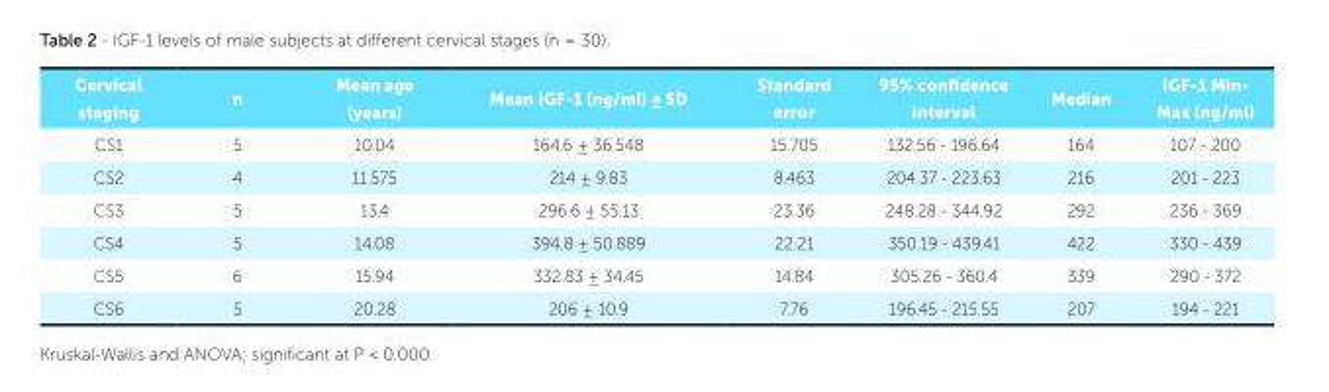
<table><thead><tr><td>Cervical staging</td><td>n</td><td>Mean age (years)</td><td>Mean IGF-1 (ng/ml) ± SD</td><td>Standard error</td><td>95% confidence interval</td><td>Median</td><td>IGF-1 Min- Max (ng/ml)</td></tr></thead><tbody><tr><td>CS1</td><td>5</td><td>10.04</td><td>164.6 ± 36.548</td><td>15.705</td><td>132.56 - 196.64</td><td>164</td><td>107 - 200</td></tr><tr><td>CS2</td><td>4</td><td>11.575</td><td>214 ± 9.83</td><td>8.463</td><td>204.37 - 223.63</td><td>216</td><td>201 - 223</td></tr><tr><td>CS3</td><td>5</td><td>13.4</td><td>296.6 ± 55.13</td><td>23.36</td><td>248.28 - 344.92</td><td>292</td><td>236 - 369</td></tr><tr><td>CS4</td><td>5</td><td>14.08</td><td>394.8 ± 50.889</td><td>22.21</td><td>350.19 - 439.41</td><td>422</td><td>330 - 439</td></tr><tr><td>CS5</td><td>6</td><td>15.94</td><td>332.83 ± 34.45</td><td>14.84</td><td>305.26 - 360.4</td><td>339</td><td>290 - 372</td></tr><tr><td>CS6</td><td>5</td><td>20.28</td><td>206 ± 10.9</td><td>7.76</td><td>196.45 - 215.55</td><td>207</td><td>194 - 221</td></tr></tbody></table>